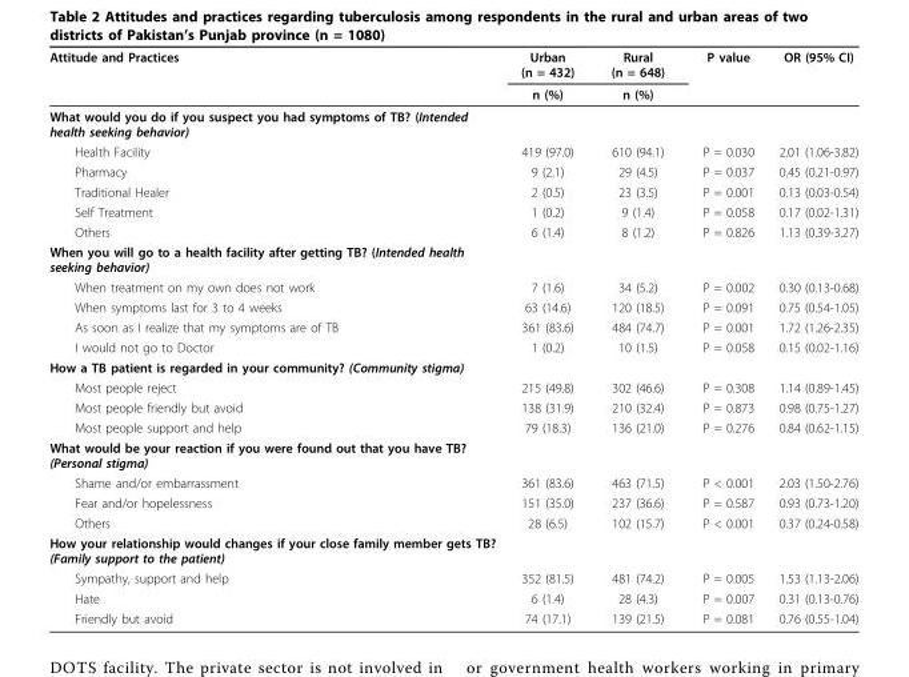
<table><thead><tr><td rowspan="2">Attitude and Practices</td><td rowspan="2">Urban (n = 432) n (%)</td><td rowspan="2">Rural (n = 648) n (%)</td><td rowspan="2">P value</td><td rowspan="2">OR (95% CI)</td></tr><tr></tr></thead><tbody><tr><td colspan="5">What would you do if you suspect you had symptoms of TB? (Intended health seeking behavior)</td></tr><tr><td>Health Facility</td><td>419 (97.0)</td><td>610 (94.1)</td><td>P = 0.030</td><td>2.01 (1.06-3.82)</td></tr><tr><td>Pharmacy</td><td>9 (2.1)</td><td>29 (4.5)</td><td>P = 0.037</td><td>0.45 (0.21-0.97)</td></tr><tr><td>Traditional Healer</td><td>2 (0.5)</td><td>23 (3.5)</td><td>P = 0.001</td><td>0.13 (0.03-0.54)</td></tr><tr><td>Self Treatment</td><td>1 (0.2)</td><td>9 (1.4)</td><td>P = 0.058</td><td>0.17 (0.02-1.31)</td></tr><tr><td>Others</td><td>6 (1.4)</td><td>8 (1.2)</td><td>P = 0.826</td><td>1.13 (0.39-3.27)</td></tr><tr><td colspan="5">When you will go to a health facility after getting TB? (Intended health seeking behavior)</td></tr><tr><td>When treatment on my own does not work</td><td>7 (1.6)</td><td>34 (5.2)</td><td>P = 0.002</td><td>0.30 (0.13-0.68)</td></tr><tr><td>When symptoms last for 3 to 4 weeks</td><td>63 (14.6)</td><td>120 (18.5)</td><td>P = 0.091</td><td>0.75 (0.54-1.05)</td></tr><tr><td>As soon as I realize that my symptoms are of TB</td><td>361 (83.6)</td><td>484 (74.7)</td><td>P = 0.001</td><td>1.72 (1.26-2.35)</td></tr><tr><td>I would not go to Doctor</td><td>1 (0.2)</td><td>10 (1.5)</td><td>P = 0.058</td><td>0.15 (0.02-1.16)</td></tr><tr><td colspan="5">How a TB patient is regarded in your community? (Community stigma)</td></tr><tr><td>Most people reject</td><td>215 (49.8)</td><td>302 (46.6)</td><td>P = 0.308</td><td>1.14 (0.89-1.45)</td></tr><tr><td>Most people friendly but avoid</td><td>138 (31.9)</td><td>210 (32.4)</td><td>P = 0.873</td><td>0.98 (0.75-1.27)</td></tr><tr><td>Most people support and help</td><td>79 (18.3)</td><td>136 (21.0)</td><td>P = 0.276</td><td>0.84 (0.62-1.15)</td></tr><tr><td colspan="5">What would be your reaction if you were found out that you have TB? (Personal stigma)</td></tr><tr><td>Shame and/or embarrassment</td><td>361 (83.6)</td><td>463 (71.5)</td><td>P &lt; 0.001</td><td>2.03 (1.50-2.76)</td></tr><tr><td>Fear and/or hopelessness</td><td>151 (35.0)</td><td>237 (36.6)</td><td>P = 0.587</td><td>0.93 (0.73-1.20)</td></tr><tr><td>Others</td><td>28 (6.5)</td><td>102 (15.7)</td><td>P &lt; 0.001</td><td>0.37 (0.24-0.58)</td></tr><tr><td colspan="5">How your relationship would changes if your close family member gets TB? (Family support to the patient)</td></tr><tr><td>Sympathy, support and help</td><td>352 (81.5)</td><td>481 (74.2)</td><td>P = 0.005</td><td>1.53 (1.13-2.06)</td></tr><tr><td>Hate</td><td>6 (1.4)</td><td>28 (4.3)</td><td>P = 0.007</td><td>0.31 (0.13-0.76)</td></tr><tr><td>Friendly but avoid</td><td>74 (17.1)</td><td>139 (21.5)</td><td>P = 0.081</td><td>0.76 (0.55-1.04)</td></tr></tbody></table>